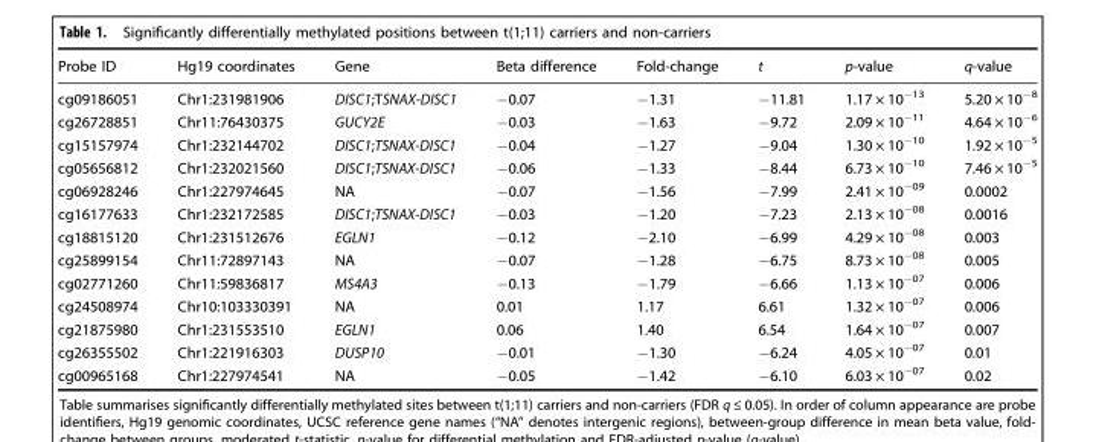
<table><thead><tr><td>Probe ID</td><td>Hg19 coordinates</td><td>Gene</td><td>Beta difference</td><td>Fold-change</td><td>t</td><td>p-value</td><td>q-value</td></tr></thead><tbody><tr><td>cg09186051</td><td>Chr1:231981906</td><td>DISC1;TSNAX-DISC1</td><td>−0.07</td><td>−1.31</td><td>−11.81</td><td>1.17 × 10<sup>−13</sup></td><td>5.20 × 10<sup>−8</sup></td></tr><tr><td>cg26728851</td><td>Chr11:76430375</td><td>GUCY2E</td><td>−0.03</td><td>−1.63</td><td>−9.72</td><td>2.09 × 10<sup>−11</sup></td><td>4.64 × 10<sup>−6</sup></td></tr><tr><td>cg15157974</td><td>Chr1:232144702</td><td>DISC1;TSNAX-DISC1</td><td>−0.04</td><td>−1.27</td><td>−9.04</td><td>1.30 × 10<sup>−10</sup></td><td>1.92 × 10<sup>−5</sup></td></tr><tr><td>cg05656812</td><td>Chr1:232021560</td><td>DISC1;TSNAX-DISC1</td><td>−0.06</td><td>−1.33</td><td>−8.44</td><td>6.73 × 10<sup>−10</sup></td><td>7.46 × 10<sup>−5</sup></td></tr><tr><td>cg06928246</td><td>Chr1:227974645</td><td>NA</td><td>−0.07</td><td>−1.56</td><td>−7.99</td><td>2.41 × 10<sup>−09</sup></td><td>0.0002</td></tr><tr><td>cg16177633</td><td>Chr1:232172585</td><td>DISC1;TSNAX-DISC1</td><td>−0.03</td><td>−1.20</td><td>−7.23</td><td>2.13 × 10<sup>−08</sup></td><td>0.0016</td></tr><tr><td>cg18815120</td><td>Chr1:231512676</td><td>EGLN1</td><td>−0.12</td><td>−2.10</td><td>−6.99</td><td>4.29 × 10<sup>−08</sup></td><td>0.003</td></tr><tr><td>cg25899154</td><td>Chr11:72897143</td><td>NA</td><td>−0.07</td><td>−1.28</td><td>−6.75</td><td>8.73 × 10<sup>−08</sup></td><td>0.005</td></tr><tr><td>cg02771260</td><td>Chr11:59836817</td><td>MS4A3</td><td>−0.13</td><td>−1.79</td><td>−6.66</td><td>1.13 × 10<sup>−07</sup></td><td>0.006</td></tr><tr><td>cg24508974</td><td>Chr10:103330391</td><td>NA</td><td>0.01</td><td>1.17</td><td>6.61</td><td>1.32 × 10<sup>−07</sup></td><td>0.006</td></tr><tr><td>cg21875980</td><td>Chr1:231553510</td><td>EGLN1</td><td>0.06</td><td>1.40</td><td>6.54</td><td>1.64 × 10<sup>−07</sup></td><td>0.007</td></tr><tr><td>cg26355502</td><td>Chr1:221916303</td><td>DUSP10</td><td>−0.01</td><td>−1.30</td><td>−6.24</td><td>4.05 × 10<sup>−07</sup></td><td>0.01</td></tr><tr><td>cg00965168</td><td>Chr1:227974541</td><td>NA</td><td>−0.05</td><td>−1.42</td><td>−6.10</td><td>6.03 × 10<sup>−07</sup></td><td>0.02</td></tr></tbody></table>